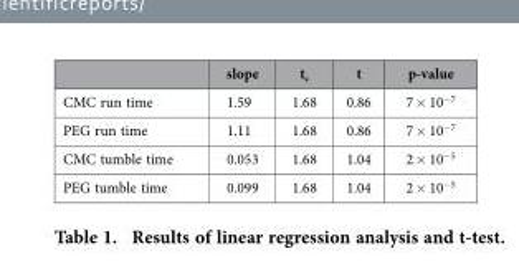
<table><thead><tr><td></td><td>slope</td><td>t<sub>c</sub></td><td>t</td><td>p-value</td></tr></thead><tbody><tr><td>CMC run time</td><td>1.59</td><td>1.68</td><td>0.86</td><td>7 × 10<sup>−7</sup></td></tr><tr><td>PEG run time</td><td>1.11</td><td>1.68</td><td>0.86</td><td>7 × 10<sup>−7</sup></td></tr><tr><td>CMC tumble time</td><td>0.053</td><td>1.68</td><td>1.04</td><td>2 × 10<sup>−5</sup></td></tr><tr><td>PEG tumble time</td><td>0.099</td><td>1.68</td><td>1.04</td><td>2 × 10<sup>−5</sup></td></tr></tbody></table>